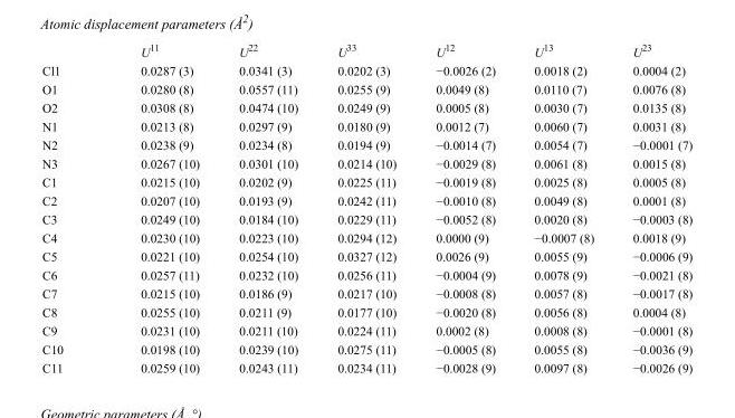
<table><thead><tr><td></td><td>U<sup>11</sup></td><td>U<sup>22</sup></td><td>U<sup>33</sup></td><td>U<sup>12</sup></td><td>U<sup>13</sup></td><td>U<sup>23</sup></td></tr></thead><tbody><tr><td>Cl1</td><td>0.0287 (3)</td><td>0.0341 (3)</td><td>0.0202 (3)</td><td>−0.0026 (2)</td><td>0.0018 (2)</td><td>0.0004 (2)</td></tr><tr><td>O1</td><td>0.0280 (8)</td><td>0.0557 (11)</td><td>0.0255 (9)</td><td>0.0049 (8)</td><td>0.0110 (7)</td><td>0.0076 (8)</td></tr><tr><td>O2</td><td>0.0308 (8)</td><td>0.0474 (10)</td><td>0.0249 (9)</td><td>0.0005 (8)</td><td>0.0030 (7)</td><td>0.0135 (8)</td></tr><tr><td>N1</td><td>0.0213 (8)</td><td>0.0297 (9)</td><td>0.0180 (9)</td><td>0.0012 (7)</td><td>0.0060 (7)</td><td>0.0031 (8)</td></tr><tr><td>N2</td><td>0.0238 (9)</td><td>0.0234 (8)</td><td>0.0194 (9)</td><td>−0.0014 (7)</td><td>0.0054 (7)</td><td>−0.0001 (7)</td></tr><tr><td>N3</td><td>0.0267 (10)</td><td>0.0301 (10)</td><td>0.0214 (10)</td><td>−0.0029 (8)</td><td>0.0061 (8)</td><td>0.0015 (8)</td></tr><tr><td>C1</td><td>0.0215 (10)</td><td>0.0202 (9)</td><td>0.0225 (11)</td><td>−0.0019 (8)</td><td>0.0025 (8)</td><td>0.0005 (8)</td></tr><tr><td>C2</td><td>0.0207 (10)</td><td>0.0193 (9)</td><td>0.0242 (11)</td><td>−0.0010 (8)</td><td>0.0049 (8)</td><td>0.0001 (8)</td></tr><tr><td>C3</td><td>0.0249 (10)</td><td>0.0184 (10)</td><td>0.0229 (11)</td><td>−0.0052 (8)</td><td>0.0020 (8)</td><td>−0.0003 (8)</td></tr><tr><td>C4</td><td>0.0230 (10)</td><td>0.0223 (10)</td><td>0.0294 (12)</td><td>0.0000 (9)</td><td>−0.0007 (8)</td><td>0.0018 (9)</td></tr><tr><td>C5</td><td>0.0221 (10)</td><td>0.0254 (10)</td><td>0.0327 (12)</td><td>0.0026 (9)</td><td>0.0055 (9)</td><td>−0.0006 (9)</td></tr><tr><td>C6</td><td>0.0257 (11)</td><td>0.0232 (10)</td><td>0.0256 (11)</td><td>−0.0004 (9)</td><td>0.0078 (9)</td><td>−0.0021 (8)</td></tr><tr><td>C7</td><td>0.0215 (10)</td><td>0.0186 (9)</td><td>0.0217 (10)</td><td>−0.0008 (8)</td><td>0.0057 (8)</td><td>−0.0017 (8)</td></tr><tr><td>C8</td><td>0.0255 (10)</td><td>0.0211 (9)</td><td>0.0177 (10)</td><td>−0.0020 (8)</td><td>0.0056 (8)</td><td>0.0004 (8)</td></tr><tr><td>C9</td><td>0.0231 (10)</td><td>0.0211 (10)</td><td>0.0224 (11)</td><td>0.0002 (8)</td><td>0.0008 (8)</td><td>−0.0001 (8)</td></tr><tr><td>C10</td><td>0.0198 (10)</td><td>0.0239 (10)</td><td>0.0275 (11)</td><td>−0.0005 (8)</td><td>0.0055 (8)</td><td>−0.0036 (9)</td></tr><tr><td>C11</td><td>0.0259 (10)</td><td>0.0243 (11)</td><td>0.0234 (11)</td><td>−0.0028 (9)</td><td>0.0097 (8)</td><td>−0.0026 (9)</td></tr></tbody></table>